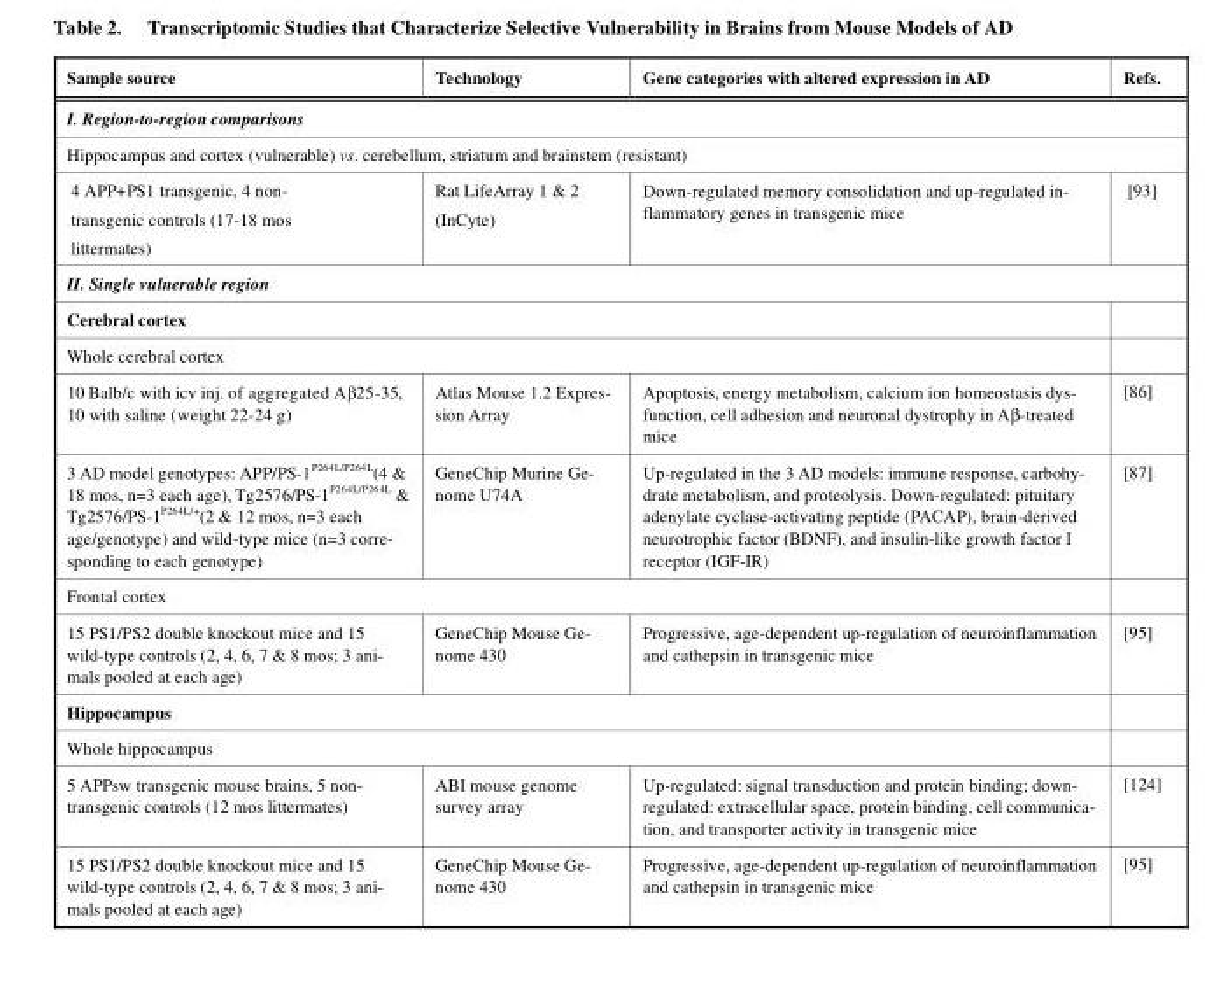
<table><thead><tr><td>Sample source</td><td>Technology</td><td>Gene categories with altered expression in AD</td><td>Refs.</td></tr></thead><tbody><tr><td colspan="4">I. Region-to-region comparisons</td></tr><tr><td colspan="4">Hippocampus and cortex (vulnerable) vs. cerebellum, striatum and brainstem (resistant)</td></tr><tr><td>4 APP+PS1 transgenic, 4 non- transgenic controls (17-18 mos littermates)</td><td>Rat LifeArray 1 &amp; 2 (InCyte)</td><td>Down-regulated memory consolidation and up-regulated in- flammatory genes in transgenic mice</td><td>[93]</td></tr><tr><td colspan="4">II. Single vulnerable region</td></tr><tr><td colspan="4">Cerebral cortex</td></tr><tr><td colspan="4">Whole cerebral cortex</td></tr><tr><td>10 Balb/c with icv inj. of aggregated Aβ25-35, 10 with saline (weight 22-24 g)</td><td>Atlas Mouse 1.2 Expres- sion Array</td><td>Apoptosis, energy metabolism, calcium ion homeostasis dys- function, cell adhesion and neuronal dystrophy in A�-treated mice</td><td>[86]</td></tr><tr><td>3 AD model genotypes: APP/PS-1P264L/P264L(4 &amp; 18 mos, n=3 each age), Tg2576/PS-1P264L/P264L &amp; Tg2576/PS-1P264L/+(2 &amp; 12 mos, n=3 each age/genotype) and wild-type mice (n=3 corre- sponding to each genotype)</td><td>GeneChip Murine Ge- nome U74A</td><td>Up-regulated in the 3 AD models: immune response, carbohy- drate metabolism, and proteolysis. Down-regulated: pituitary adenylate cyclase-activating peptide (PACAP), brain-derived neurotrophic factor (BDNF), and insulin-like growth factor I receptor (IGF-IR)</td><td>[87]</td></tr><tr><td colspan="4">Frontal cortex</td></tr><tr><td>15 PS1/PS2 double knockout mice and 15 wild-type controls (2, 4, 6, 7 &amp; 8 mos; 3 ani- mals pooled at each age)</td><td>GeneChip Mouse Ge- nome 430</td><td>Progressive, age-dependent up-regulation of neuroinflammation and cathepsin in transgenic mice</td><td>[95]</td></tr><tr><td colspan="4">Hippocampus</td></tr><tr><td colspan="4">Whole hippocampus</td></tr><tr><td>5 APPsw transgenic mouse brains, 5 non- transgenic controls (12 mos littermates)</td><td>ABI mouse genome survey array</td><td>Up-regulated: signal transduction and protein binding; down- regulated: extracellular space, protein binding, cell communica- tion, and transporter activity in transgenic mice</td><td>[124]</td></tr><tr><td>15 PS1/PS2 double knockout mice and 15 wild-type controls (2, 4, 6, 7 &amp; 8 mos; 3 ani- mals pooled at each age)</td><td>GeneChip Mouse Ge- nome 430</td><td>Progressive, age-dependent up-regulation of neuroinflammation and cathepsin in transgenic mice</td><td>[95]</td></tr></tbody></table>